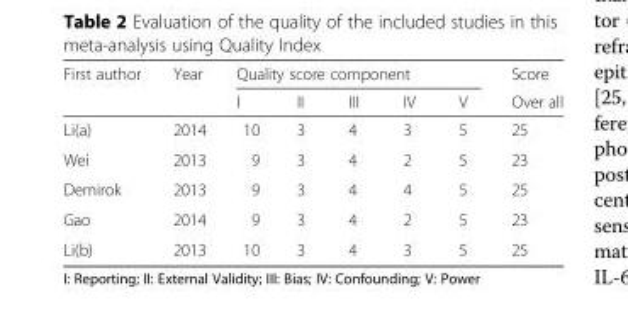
<table><thead><tr><td rowspan="2">First author</td><td rowspan="2">Year</td><td colspan="5">Quality score component</td><td rowspan="2">Score Over all</td></tr><tr><td>I</td><td>II</td><td>III</td><td>IV</td><td>V</td></tr></thead><tbody><tr><td>Li(a)</td><td>2014</td><td>10</td><td>3</td><td>4</td><td>3</td><td>5</td><td>25</td></tr><tr><td>Wei</td><td>2013</td><td>9</td><td>3</td><td>4</td><td>2</td><td>5</td><td>23</td></tr><tr><td>Demirok</td><td>2013</td><td>9</td><td>3</td><td>4</td><td>4</td><td>5</td><td>25</td></tr><tr><td>Gao</td><td>2014</td><td>9</td><td>3</td><td>4</td><td>2</td><td>5</td><td>23</td></tr><tr><td>Li(b)</td><td>2013</td><td>10</td><td>3</td><td>4</td><td>3</td><td>5</td><td>25</td></tr></tbody></table>